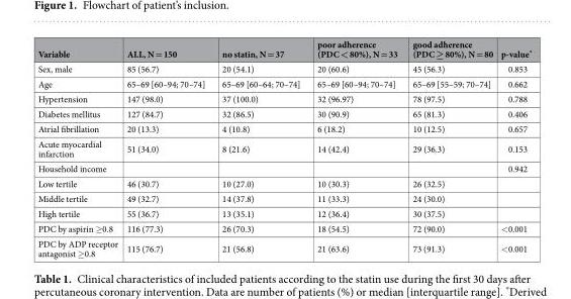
<table><thead><tr><td>Variable</td><td>ALL, N = 150</td><td>no statin, N = 37</td><td>poor adherence (PDC &lt; 80%), N = 33</td><td>good adherence (PDC ≥ 80%), N = 80</td><td>p-value*</td></tr></thead><tbody><tr><td>Sex, male</td><td>85 (56.7)</td><td>20 (54.1)</td><td>20 (60.6)</td><td>45 (56.3)</td><td>0.853</td></tr><tr><td>Age</td><td>65–69 [60–94; 70–74]</td><td>65–69 [60–64; 70–74]</td><td>65–69 [60–94; 70–74]</td><td>65–69 [55–59; 70–74]</td><td>0.662</td></tr><tr><td>Hypertension</td><td>147 (98.0)</td><td>37 (100.0)</td><td>32 (96.97)</td><td>78 (97.5)</td><td>0.788</td></tr><tr><td>Diabetes mellitus</td><td>127 (84.7)</td><td>32 (86.5)</td><td>30 (90.9)</td><td>65 (81.3)</td><td>0.406</td></tr><tr><td>Atrial fibrillation</td><td>20 (13.3)</td><td>4 (10.8)</td><td>6 (18.2)</td><td>10 (12.5)</td><td>0.657</td></tr><tr><td>Acute myocardial infarction</td><td>51 (34.0)</td><td>8 (21.6)</td><td>14 (42.4)</td><td>29 (36.3)</td><td>0.153</td></tr><tr><td>Household income</td><td></td><td></td><td></td><td></td><td>0.942</td></tr><tr><td>Low tertile</td><td>46 (30.7)</td><td>10 (27.0)</td><td>10 (30.3)</td><td>26 (32.5)</td><td></td></tr><tr><td>Middle tertile</td><td>49 (32.7)</td><td>14 (37.8)</td><td>11 (33.3)</td><td>24 (30.0)</td><td></td></tr><tr><td>High tertile</td><td>55 (36.7)</td><td>13 (35.1)</td><td>12 (36.4)</td><td>30 (37.5)</td><td></td></tr><tr><td>PDC by aspirin ≥0.8</td><td>116 (77.3)</td><td>26 (70.3)</td><td>18 (54.5)</td><td>72 (90.0)</td><td>&lt;0.001</td></tr><tr><td>PDC by ADP receptor antagonist ≥0.8</td><td>115 (76.7)</td><td>21 (56.8)</td><td>21 (63.6)</td><td>73 (91.3)</td><td>&lt;0.001</td></tr></tbody></table>